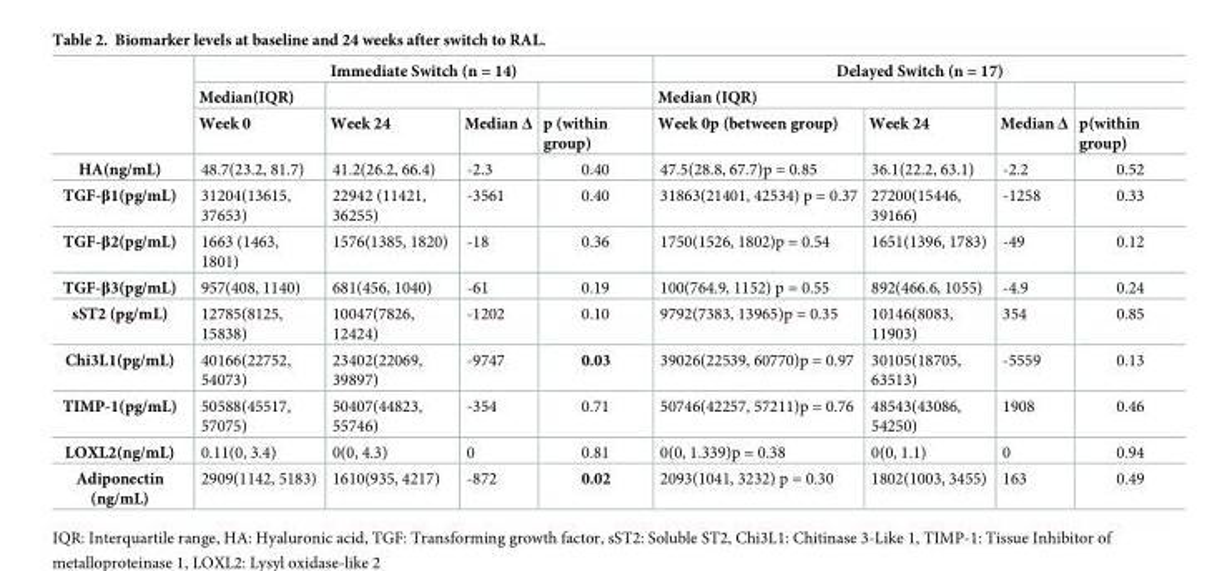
<table><thead><tr><td rowspan="3"></td><td colspan="4">Immediate Switch (n = 14)</td><td colspan="4">Delayed Switch (n = 17)</td></tr><tr><td rowspan="2">Median(IQR) Week 0</td><td rowspan="2">Week 24</td><td rowspan="2">Median Δ</td><td rowspan="2">p (within group)</td><td colspan="2">Median (IQR)</td><td rowspan="2">Median Δ</td><td rowspan="2">p(within group)</td></tr><tr><td>Week 0p (between group)</td><td>Week 24</td></tr></thead><tbody><tr><td>HA(ng/mL)</td><td>48.7(23.2, 81.7)</td><td>41.2(26.2, 66.4)</td><td>-2.3</td><td>0.40</td><td>47.5(28.8, 67.7)p = 0.85</td><td>36.1(22.2, 63.1)</td><td>-2.2</td><td>0.52</td></tr><tr><td>TGF-β1(pg/mL)</td><td>31204(13615, 37653)</td><td>22942 (11421, 36255)</td><td>-3561</td><td>0.40</td><td>31863(21401, 42534) p = 0.37</td><td>27200(15446, 39166)</td><td>-1258</td><td>0.33</td></tr><tr><td>TGF-β2(pg/mL)</td><td>1663 (1463, 1801)</td><td>1576(1385, 1820)</td><td>-18</td><td>0.36</td><td>1750(1526, 1802)p = 0.54</td><td>1651(1396, 1783)</td><td>-49</td><td>0.12</td></tr><tr><td>TGF-β3(pg/mL)</td><td>957(408, 1140)</td><td>681(456, 1040)</td><td>-61</td><td>0.19</td><td>100(764.9, 1152) p = 0.55</td><td>892(466.6, 1055)</td><td>-4.9</td><td>0.24</td></tr><tr><td>sST2 (pg/mL)</td><td>12785(8125, 15838)</td><td>10047(7826, 12424)</td><td>-1202</td><td>0.10</td><td>9792(7383, 13965)p = 0.35</td><td>10146(8083, 11903)</td><td>354</td><td>0.85</td></tr><tr><td>Chi3L1(pg/mL)</td><td>40166(22752, 54073)</td><td>23402(22069, 39897)</td><td>-9747</td><td>0.03</td><td>39026(22539, 60770)p = 0.97</td><td>30105(18705, 63513)</td><td>-5559</td><td>0.13</td></tr><tr><td>TIMP-1(pg/mL)</td><td>50588(45517, 57075)</td><td>50407(44823, 55746)</td><td>-354</td><td>0.71</td><td>50746(42257, 57211)p = 0.76</td><td>48543(43086, 54250)</td><td>1908</td><td>0.46</td></tr><tr><td>LOXL2(ng/mL)</td><td>0.11(0, 3.4)</td><td>0(0, 4.3)</td><td>0</td><td>0.81</td><td>0(0, 1.339)p = 0.38</td><td>0(0, 1.1)</td><td>0</td><td>0.94</td></tr><tr><td>Adiponectin (ng/mL)</td><td>2909(1142, 5183)</td><td>1610(935, 4217)</td><td>-872</td><td>0.02</td><td>2093(1041, 3232) p = 0.30</td><td>1802(1003, 3455)</td><td>163</td><td>0.49</td></tr></tbody></table>